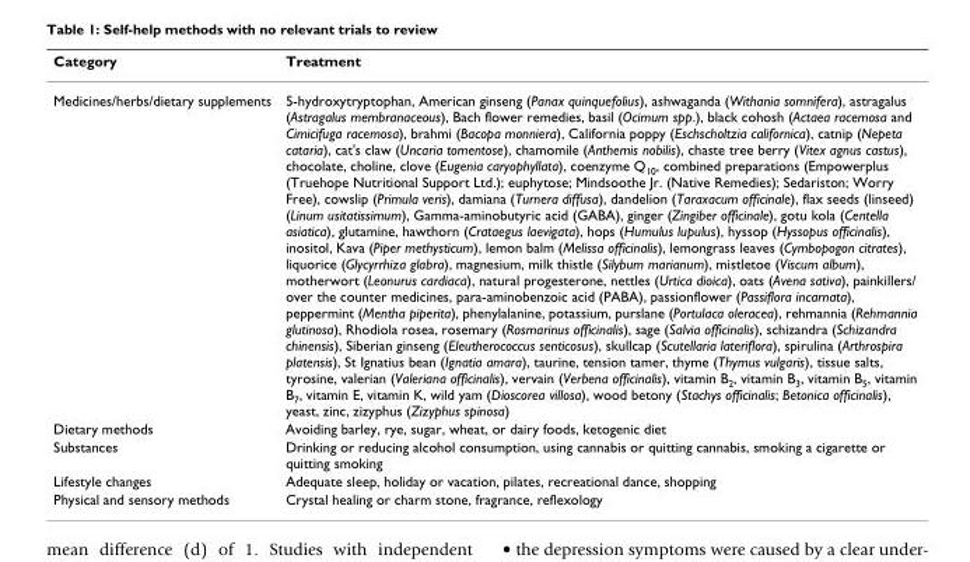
<table><thead><tr><td>Category</td><td>Treatment</td></tr></thead><tbody><tr><td>Medicines/herbs/dietary supplements</td><td>5-hydroxytryptophan, American ginseng (Panax quinquefolius), ashwaganda (Withania somnifera), astragalus (Astragalus membranaceous), Bach flower remedies, basil (Ocimum spp.), black cohosh (Actaea racemosa and Cimicifuga racemosa), brahmi (Bacopa monniera), California poppy (Eschscholtzia californica), catnip (Nepeta cataria), cat&#x27;s claw (Uncaria tomentose), chamomile (Anthemis nobilis), chaste tree berry (Vitex agnus castus), chocolate, choline, clove (Eugenia caryophyllata), coenzyme Q10, combined preparations (Empowerplus (Truehope Nutritional Support Ltd.); euphytose; Mindsoothe Jr. (Native Remedies); Sedariston; Worry Free), cowslip (Primula veris), damiana (Turnera diffusa), dandelion (Taraxacum officinale), flax seeds (linseed) (Linum usitatissimum), Gamma-aminobutyric acid (GABA), ginger (Zingiber officinale), gotu kola (Centella asiatica), glutamine, hawthorn (Crataegus laevigata), hops (Humulus lupulus), hyssop (Hyssopus officinalis), inositol, Kava (Piper methysticum), lemon balm (Melissa officinalis), lemongrass leaves (Cymbopogon citrates), liquorice (Glycyrrhiza glabra), magnesium, milk thistle (Silybum marianum), mistletoe (Viscum album), motherwort (Leonurus cardiaca), natural progesterone, nettles (Urtica dioica), oats (Avena sativa), painkillers/ over the counter medicines, para-aminobenzoic acid (PABA), passionflower (Passiflora incarnata), peppermint (Mentha piperita), phenylalanine, potassium, purslane (Portulaca oleracea), rehmannia (Rehmannia glutinosa), Rhodiola rosea, rosemary (Rosmarinus officinalis), sage (Salvia officinalis), schizandra (Schizandra chinensis), Siberian ginseng (Eleutherococcus senticosus), skullcap (Scutellaria lateriflora), spirulina (Arthrospira platensis), St Ignatius bean (Ignatia amara), taurine, tension tamer, thyme (Thymus vulgaris), tissue salts, tyrosine, valerian (Valeriana officinalis), vervain (Verbena officinalis), vitamin B2, vitamin B3, vitamin B5, vitamin B7, vitamin E, vitamin K, wild yam (Dioscorea villosa), wood betony (Stachys officinalis; Betonica officinalis), yeast, zinc, zizyphus (Zizyphus spinosa)</td></tr><tr><td>Dietary methods</td><td>Avoiding barley, rye, sugar, wheat, or dairy foods, ketogenic diet</td></tr><tr><td>Substances</td><td>Drinking or reducing alcohol consumption, using cannabis or quitting cannabis, smoking a cigarette or quitting smoking</td></tr><tr><td>Lifestyle changes</td><td>Adequate sleep, holiday or vacation, pilates, recreational dance, shopping</td></tr><tr><td>Physical and sensory methods</td><td>Crystal healing or charm stone, fragrance, reflexology</td></tr></tbody></table>